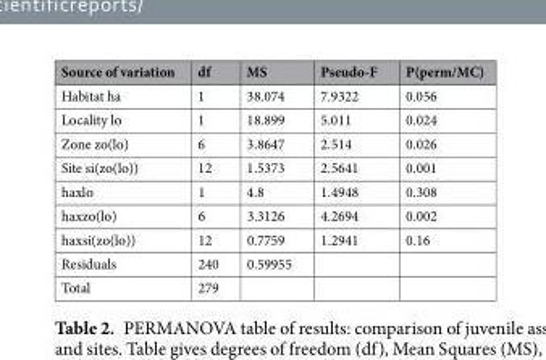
<table><thead><tr><td>Source of variation</td><td>df</td><td>MS</td><td>Pseudo-F</td><td>P(perm/MC)</td></tr></thead><tbody><tr><td>Habitat ha</td><td>1</td><td>38.074</td><td>7.9322</td><td>0.056</td></tr><tr><td>Locality lo</td><td>1</td><td>18.899</td><td>5.011</td><td>0.024</td></tr><tr><td>Zone zo(lo)</td><td>6</td><td>3.8647</td><td>2.514</td><td>0.026</td></tr><tr><td>Site si(zo(lo))</td><td>12</td><td>1.5373</td><td>2.5641</td><td>0.001</td></tr><tr><td>haxlo</td><td>1</td><td>4.8</td><td>1.4948</td><td>0.308</td></tr><tr><td>haxzo(lo)</td><td>6</td><td>3.3126</td><td>4.2694</td><td>0.002</td></tr><tr><td>haxsi(zo(lo))</td><td>12</td><td>0.7759</td><td>1.2941</td><td>0.16</td></tr><tr><td>Residuals</td><td>240</td><td>0.59955</td><td></td><td></td></tr><tr><td>Total</td><td>279</td><td></td><td></td><td></td></tr></tbody></table>